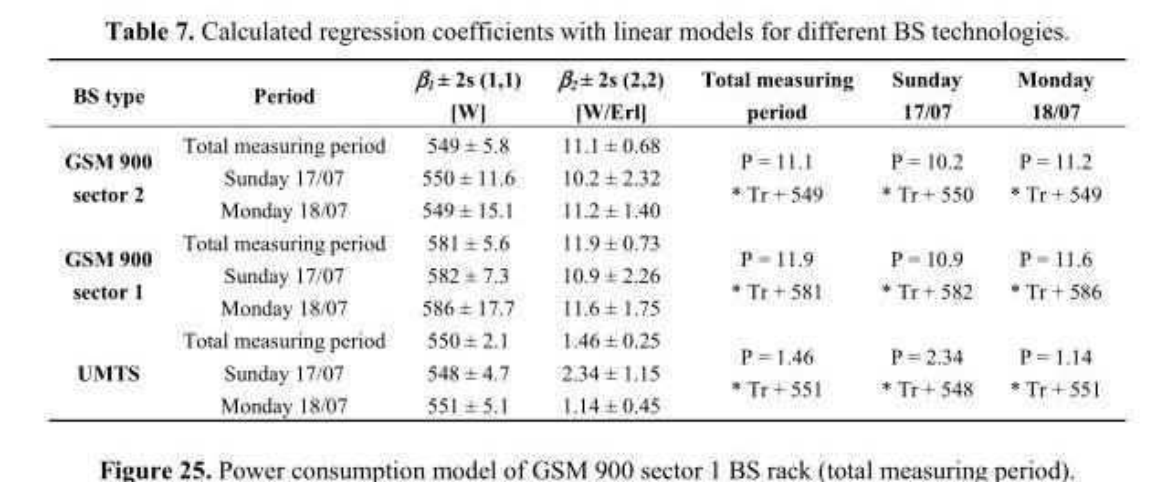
<table><thead><tr><td rowspan="2">BS type</td><td rowspan="2">Period</td><td rowspan="2">β<sub>1</sub> ± 2s (1,1) [W]</td><td rowspan="2">β<sub>2</sub> ± 2s (2,2) [W/Erl]</td><td rowspan="2">Total measuring period</td><td rowspan="2">Sunday 17/07</td><td rowspan="2">Monday 18/07</td></tr><tr></tr></thead><tbody><tr><td rowspan="3">GSM 900 sector 2</td><td>Total measuring period</td><td>549 ± 5.8</td><td>11.1 ± 0.68</td><td rowspan="3">P = 11.1 * Tr + 549</td><td rowspan="3">P = 10.2 * Tr + 550</td><td rowspan="3">P = 11.2 * Tr + 549</td></tr><tr><td>Sunday 17/07</td><td>550 ± 11.6</td><td>10.2 ± 2.32</td></tr><tr><td>Monday 18/07</td><td>549 ± 15.1</td><td>11.2 ± 1.40</td></tr><tr><td rowspan="3">GSM 900 sector 1</td><td>Total measuring period</td><td>581 ± 5.6</td><td>11.9 ± 0.73</td><td rowspan="3">P = 11.9 * Tr + 581</td><td rowspan="3">P = 10.9 * Tr + 582</td><td rowspan="3">P = 11.6 * Tr + 586</td></tr><tr><td>Sunday 17/07</td><td>582 ± 7.3</td><td>10.9 ± 2.26</td></tr><tr><td>Monday 18/07</td><td>586 ± 17.7</td><td>11.6 ± 1.75</td></tr><tr><td rowspan="3">UMTS</td><td>Total measuring period</td><td>550 ± 2.1</td><td>1.46 ± 0.25</td><td rowspan="3">P = 1.46 * Tr + 551</td><td rowspan="3">P = 2.34 * Tr + 548</td><td rowspan="3">P = 1.14 * Tr + 551</td></tr><tr><td>Sunday 17/07</td><td>548 ± 4.7</td><td>2.34 ± 1.15</td></tr><tr><td>Monday 18/07</td><td>551 ± 5.1</td><td>1.14 ± 0.45</td></tr></tbody></table>